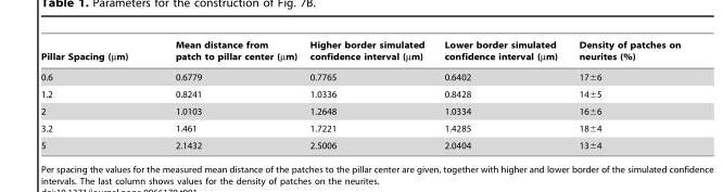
<table><thead><tr><td>Pillar Spacing (µm)</td><td>Mean distance from patch to pillar center (µm)</td><td>Higher border simulated confidence interval (µm)</td><td>Lower border simulated confidence interval (µm)</td><td>Density of patches on neurites (%)</td></tr></thead><tbody><tr><td>0.6</td><td>0.6779</td><td>0.7765</td><td>0.6402</td><td>17±6</td></tr><tr><td>1.2</td><td>0.8241</td><td>1.0336</td><td>0.8428</td><td>14±5</td></tr><tr><td>2</td><td>1.0103</td><td>1.2648</td><td>1.0334</td><td>16±6</td></tr><tr><td>3.2</td><td>1.461</td><td>1.7221</td><td>1.4285</td><td>18±4</td></tr><tr><td>5</td><td>2.1432</td><td>2.5006</td><td>2.0404</td><td>13±4</td></tr></tbody></table>